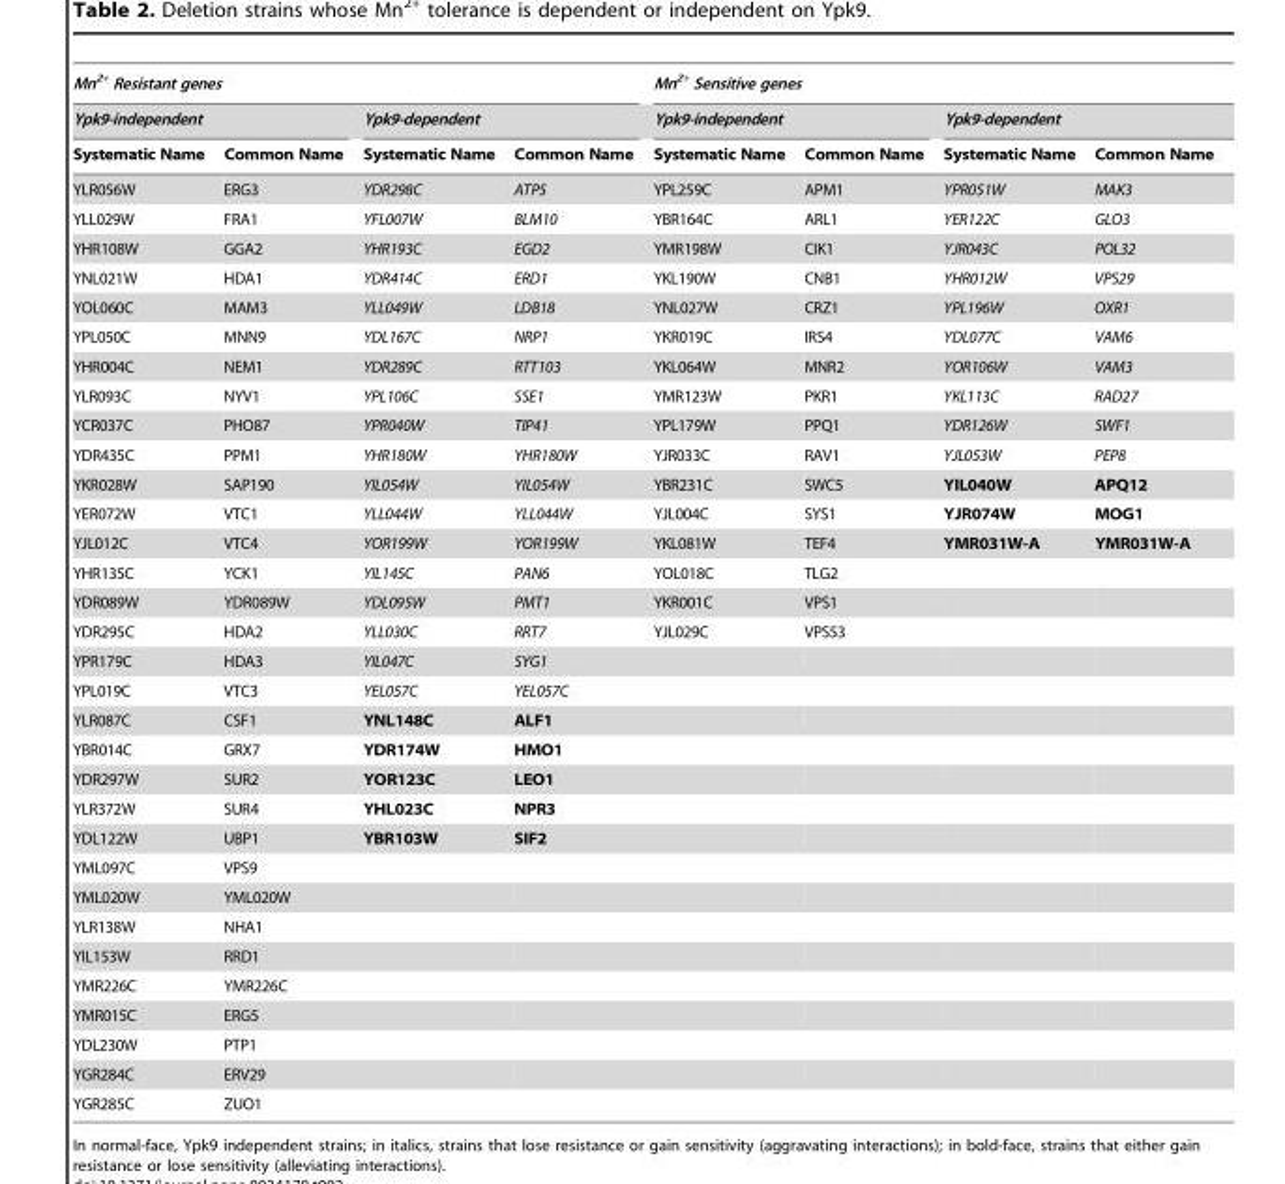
<table><thead><tr><td colspan="4">Mn<sup>2+</sup> Resistant genes</td><td colspan="4">Mn<sup>2+</sup> Sensitive genes</td></tr><tr><td colspan="2">Ypk9-independent</td><td colspan="2">Ypk9-dependent</td><td colspan="2">Ypk9-independent</td><td colspan="2">Ypk9-dependent</td></tr><tr><td>Systematic Name</td><td>Common Name</td><td>Systematic Name</td><td>Common Name</td><td>Systematic Name</td><td>Common Name</td><td>Systematic Name</td><td>Common Name</td></tr></thead><tbody><tr><td>YLR056W</td><td>ERG3</td><td>YDR298C</td><td>ATP5</td><td>YPL259C</td><td>APM1</td><td>YPR051W</td><td>MAK3</td></tr><tr><td>YLL029W</td><td>FRA1</td><td>YFL007W</td><td>BLM10</td><td>YBR164C</td><td>ARL1</td><td>YER122C</td><td>GLO3</td></tr><tr><td>YHR108W</td><td>GGA2</td><td>YHR193C</td><td>EGD2</td><td>YMR198W</td><td>CIK1</td><td>YJR043C</td><td>POL32</td></tr><tr><td>YNL021W</td><td>HDA1</td><td>YDR414C</td><td>ERD1</td><td>YKL190W</td><td>CNB1</td><td>YHR012W</td><td>VPS29</td></tr><tr><td>YOL060C</td><td>MAM3</td><td>YLL049W</td><td>LDB18</td><td>YNL027W</td><td>CRZ1</td><td>YPL196W</td><td>OXR1</td></tr><tr><td>YPL050C</td><td>MNN9</td><td>YDL167C</td><td>NRP1</td><td>YKR019C</td><td>IRS4</td><td>YDL077C</td><td>VAM6</td></tr><tr><td>YHR004C</td><td>NEM1</td><td>YDR289C</td><td>RTT103</td><td>YKL064W</td><td>MNR2</td><td>YOR106W</td><td>VAM3</td></tr><tr><td>YLR093C</td><td>NYV1</td><td>YPL106C</td><td>SSE1</td><td>YMR123W</td><td>PKR1</td><td>YKL113C</td><td>RAD27</td></tr><tr><td>YCR037C</td><td>PHO87</td><td>YPR040W</td><td>TIP41</td><td>YPL179W</td><td>PPQ1</td><td>YDR126W</td><td>SWF1</td></tr><tr><td>YDR435C</td><td>PPM1</td><td>YHR180W</td><td>YHR180W</td><td>YJR033C</td><td>RAV1</td><td>YJL053W</td><td>PEP8</td></tr><tr><td>YKR028W</td><td>SAP190</td><td>YIL054W</td><td>YIL054W</td><td>YBR231C</td><td>SWC5</td><td>YIL040W</td><td>APQ12</td></tr><tr><td>YER072W</td><td>VTC1</td><td>YLL044W</td><td>YLL044W</td><td>YJL004C</td><td>SYS1</td><td>YJR074W</td><td>MOG1</td></tr><tr><td>YJL012C</td><td>VTC4</td><td>YOR199W</td><td>YOR199W</td><td>YKL081W</td><td>TEF4</td><td>YMR031W-A</td><td>YMR031W-A</td></tr><tr><td>YHR135C</td><td>YCK1</td><td>YIL145C</td><td>PAN6</td><td>YOL018C</td><td>TLG2</td><td></td><td></td></tr><tr><td>YDR089W</td><td>YDR089W</td><td>YDL095W</td><td>PMT1</td><td>YKR001C</td><td>VPS1</td><td></td><td></td></tr><tr><td>YDR295C</td><td>HDA2</td><td>YLL030C</td><td>RRT7</td><td>YJL029C</td><td>VPS53</td><td></td><td></td></tr><tr><td>YPR179C</td><td>HDA3</td><td>YIL047C</td><td>SYG1</td><td></td><td></td><td></td><td></td></tr><tr><td>YPL019C</td><td>VTC3</td><td>YEL057C</td><td>YEL057C</td><td></td><td></td><td></td><td></td></tr><tr><td>YLR087C</td><td>CSF1</td><td>YNL148C</td><td>ALF1</td><td></td><td></td><td></td><td></td></tr><tr><td>YBR014C</td><td>GRX7</td><td>YDR174W</td><td>HMO1</td><td></td><td></td><td></td><td></td></tr><tr><td>YDR297W</td><td>SUR2</td><td>YOR123C</td><td>LEO1</td><td></td><td></td><td></td><td></td></tr><tr><td>YLR372W</td><td>SUR4</td><td>YHL023C</td><td>NPR3</td><td></td><td></td><td></td><td></td></tr><tr><td>YDL122W</td><td>UBP1</td><td>YBR103W</td><td>SIF2</td><td></td><td></td><td></td><td></td></tr><tr><td>YML097C</td><td>VPS9</td><td></td><td></td><td></td><td></td><td></td><td></td></tr><tr><td>YML020W</td><td>YML020W</td><td></td><td></td><td></td><td></td><td></td><td></td></tr><tr><td>YLR138W</td><td>NHA1</td><td></td><td></td><td></td><td></td><td></td><td></td></tr><tr><td>YIL153W</td><td>RRD1</td><td></td><td></td><td></td><td></td><td></td><td></td></tr><tr><td>YMR226C</td><td>YMR226C</td><td></td><td></td><td></td><td></td><td></td><td></td></tr><tr><td>YMR015C</td><td>ERG5</td><td></td><td></td><td></td><td></td><td></td><td></td></tr><tr><td>YDL230W</td><td>PTP1</td><td></td><td></td><td></td><td></td><td></td><td></td></tr><tr><td>YGR284C</td><td>ERV29</td><td></td><td></td><td></td><td></td><td></td><td></td></tr><tr><td>YGR285C</td><td>ZUO1</td><td></td><td></td><td></td><td></td><td></td><td></td></tr></tbody></table>